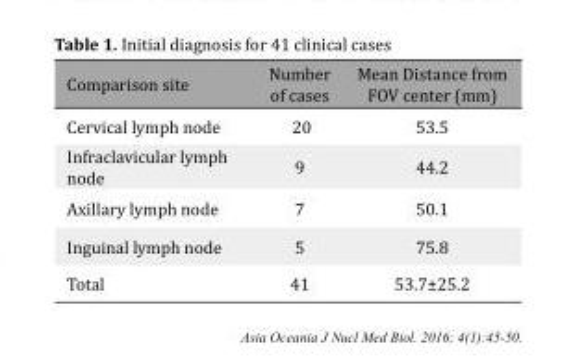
<table><thead><tr><td>Comparison site</td><td>Number of cases</td><td>Mean Distance from FOV center (mm)</td></tr></thead><tbody><tr><td>Cervical lymph node</td><td>20</td><td>53.5</td></tr><tr><td>Infraclavicular lymph node</td><td>9</td><td>44.2</td></tr><tr><td>Axillary lymph node</td><td>7</td><td>50.1</td></tr><tr><td>Inguinal lymph node</td><td>5</td><td>75.8</td></tr><tr><td>Total</td><td>41</td><td>53.7±25.2</td></tr></tbody></table>